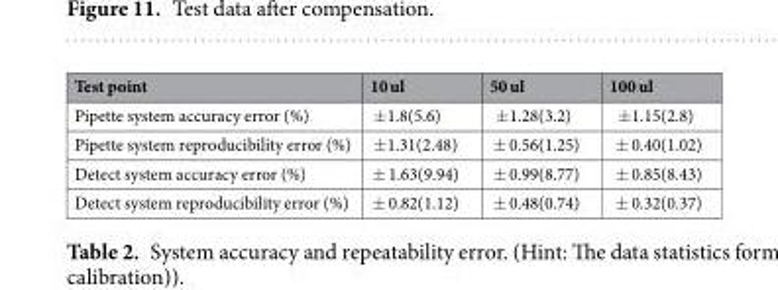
<table><thead><tr><td>Test point</td><td>10 ul</td><td>50 ul</td><td>100 ul</td></tr></thead><tbody><tr><td>Pipette system accuracy error (%)</td><td>±1.8(5.6)</td><td>±1.28(3.2)</td><td>±1.15(2.8)</td></tr><tr><td>Pipette system reproducibility error (%)</td><td>±1.31(2.48)</td><td>± 0.56(1.25)</td><td>± 0.40(1.02)</td></tr><tr><td>Detect system accuracy error (%)</td><td>± 1.63(9.94)</td><td>± 0.99(8.77)</td><td>± 0.85(8.43)</td></tr><tr><td>Detect system reproducibility error (%)</td><td>± 0.82(1.12)</td><td>± 0.48(0.74)</td><td>± 0.32(0.37)</td></tr></tbody></table>